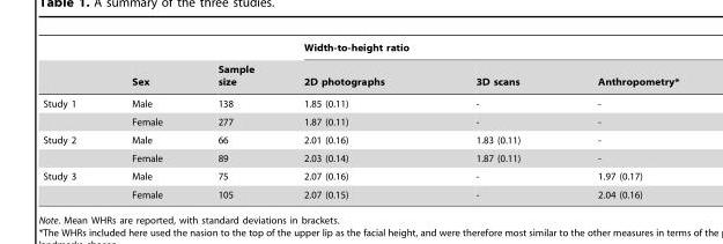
<table><thead><tr><td rowspan="2"></td><td rowspan="2">Sex</td><td rowspan="2">Sample size</td><td colspan="3">Width-to-height ratio</td></tr><tr><td>2D photographs</td><td>3D scans</td><td>Anthropometry*</td></tr></thead><tbody><tr><td rowspan="2">Study 1</td><td>Male</td><td>138</td><td>1.85 (0.11)</td><td>-</td><td>-</td></tr><tr><td>Female</td><td>277</td><td>1.87 (0.11)</td><td>-</td><td>-</td></tr><tr><td rowspan="2">Study 2</td><td>Male</td><td>66</td><td>2.01 (0.16)</td><td>1.83 (0.11)</td><td>-</td></tr><tr><td>Female</td><td>89</td><td>2.03 (0.14)</td><td>1.87 (0.11)</td><td>-</td></tr><tr><td rowspan="2">Study 3</td><td>Male</td><td>75</td><td>2.07 (0.16)</td><td>-</td><td>1.97 (0.17)</td></tr><tr><td>Female</td><td>105</td><td>2.07 (0.15)</td><td>-</td><td>2.04 (0.16)</td></tr></tbody></table>